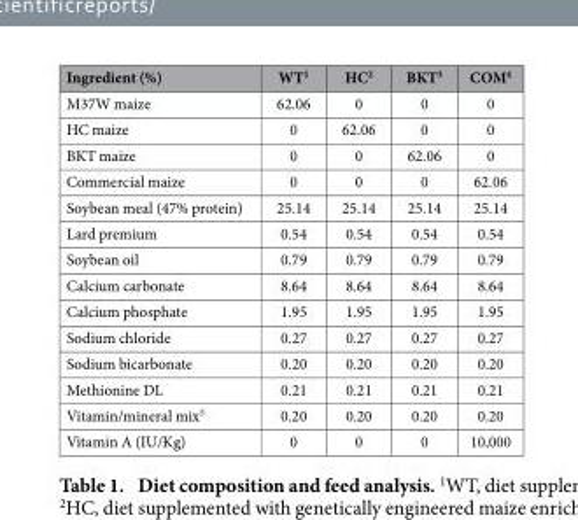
<table><thead><tr><td>Ingredient (%)</td><td>WT<sup>1</sup></td><td>HC<sup>2</sup></td><td>BKT<sup>3</sup></td><td>COM<sup>4</sup></td></tr></thead><tbody><tr><td>M37W maize</td><td>62.06</td><td>0</td><td>0</td><td>0</td></tr><tr><td>HC maize</td><td>0</td><td>62.06</td><td>0</td><td>0</td></tr><tr><td>BKT maize</td><td>0</td><td>0</td><td>62.06</td><td>0</td></tr><tr><td>Commercial maize</td><td>0</td><td>0</td><td>0</td><td>62.06</td></tr><tr><td>Soybean meal (47% protein)</td><td>25.14</td><td>25.14</td><td>25.14</td><td>25.14</td></tr><tr><td>Lard premium</td><td>0.54</td><td>0.54</td><td>0.54</td><td>0.54</td></tr><tr><td>Soybean oil</td><td>0.79</td><td>0.79</td><td>0.79</td><td>0.79</td></tr><tr><td>Calcium carbonate</td><td>8.64</td><td>8.64</td><td>8.64</td><td>8.64</td></tr><tr><td>Calcium phosphate</td><td>1.95</td><td>1.95</td><td>1.95</td><td>1.95</td></tr><tr><td>Sodium chloride</td><td>0.27</td><td>0.27</td><td>0.27</td><td>0.27</td></tr><tr><td>Sodium bicarbonate</td><td>0.20</td><td>0.20</td><td>0.20</td><td>0.20</td></tr><tr><td>Methionine DL</td><td>0.21</td><td>0.21</td><td>0.21</td><td>0.21</td></tr><tr><td>Vitamin/mineral mix<sup>5</sup></td><td>0.20</td><td>0.20</td><td>0.20</td><td>0.20</td></tr><tr><td>Vitamin A (IU/Kg)</td><td>0</td><td>0</td><td>0</td><td>10,000</td></tr></tbody></table>